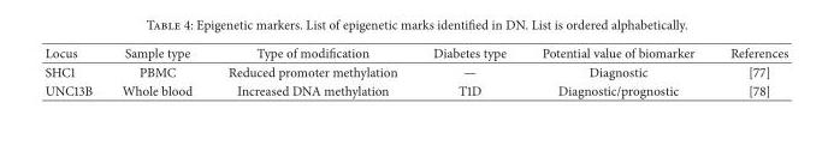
<table><thead><tr><td>Locus</td><td>Sample type</td><td>Type of modification</td><td>Diabetes type</td><td>Potential value of biomarker</td><td>References</td></tr></thead><tbody><tr><td>SHC1</td><td>PBMC</td><td>Reduced promoter methylation</td><td>—</td><td>Diagnostic</td><td>[77]</td></tr><tr><td>UNC13B</td><td>Whole blood</td><td>Increased DNA methylation</td><td>T1D</td><td>Diagnostic/prognostic</td><td>[78]</td></tr></tbody></table>